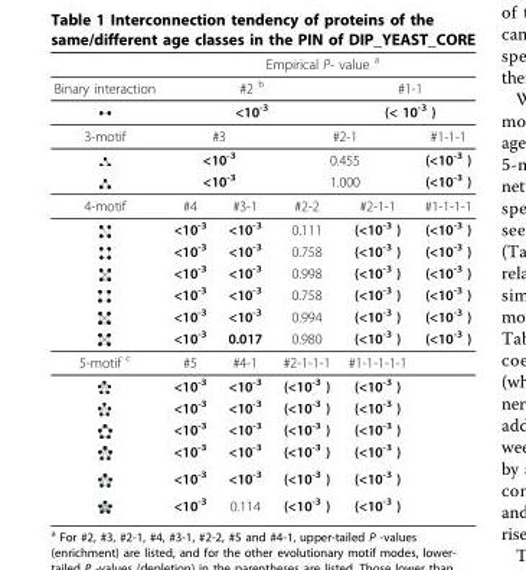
<table><thead><tr><td></td><td colspan="5">Empirical P- value <sup>a</sup></td></tr></thead><tbody><tr><td rowspan="2">Binary interaction</td><td colspan="3">#2 <sup>b</sup></td><td colspan="2">#1-1</td></tr><tr><td colspan="3">&lt;10<sup>-3</sup></td><td colspan="2">(&lt; 10<sup>-3</sup> )</td></tr><tr><td rowspan="3">3-motif</td><td colspan="2">#3</td><td colspan="2">#2-1</td><td>#1-1-1</td></tr><tr><td colspan="2">&lt;10<sup>-3</sup></td><td colspan="2">0.455</td><td>(&lt;10<sup>-3</sup> )</td></tr><tr><td colspan="2">&lt;10<sup>-3</sup></td><td colspan="2">1.000</td><td>(&lt;10<sup>-3</sup> )</td></tr><tr><td rowspan="7">4-motif</td><td>#4</td><td>#3-1</td><td>#2-2</td><td>#2-1-1</td><td>#1-1-1-1</td></tr><tr><td>&lt;10<sup>-3</sup></td><td>&lt;10<sup>-3</sup></td><td>0.111</td><td>(&lt;10<sup>-3</sup> )</td><td>(&lt;10<sup>-3</sup> )</td></tr><tr><td>&lt;10<sup>-3</sup></td><td>&lt;10<sup>-3</sup></td><td>0.758</td><td>(&lt;10<sup>-3</sup> )</td><td>(&lt;10<sup>-3</sup> )</td></tr><tr><td>&lt;10<sup>-3</sup></td><td>&lt;10<sup>-3</sup></td><td>0.998</td><td>(&lt;10<sup>-3</sup> )</td><td>(&lt;10<sup>-3</sup> )</td></tr><tr><td>&lt;10<sup>-3</sup></td><td>&lt;10<sup>-3</sup></td><td>0.758</td><td>(&lt;10<sup>-3</sup> )</td><td>(&lt;10<sup>-3</sup> )</td></tr><tr><td>&lt;10<sup>-3</sup></td><td>&lt;10<sup>-3</sup></td><td>0.994</td><td>(&lt;10<sup>-3</sup> )</td><td>(&lt;10<sup>-3</sup> )</td></tr><tr><td>&lt;10<sup>-3</sup></td><td>0.017</td><td>0.980</td><td>(&lt;10<sup>-3</sup> )</td><td>(&lt;10<sup>-3</sup> )</td></tr><tr><td rowspan="7">5-motif <sup>c</sup></td><td>#5</td><td>#4-1</td><td>#2-1-1-1</td><td>#1-1-1-1-1</td><td></td></tr><tr><td>&lt;10<sup>-3</sup></td><td>&lt;10<sup>-3</sup></td><td>(&lt;10<sup>-3</sup> )</td><td>(&lt;10<sup>-3</sup> )</td><td></td></tr><tr><td>&lt;10<sup>-3</sup></td><td>&lt;10<sup>-3</sup></td><td>(&lt;10<sup>-3</sup> )</td><td>(&lt;10<sup>-3</sup> )</td><td></td></tr><tr><td>&lt;10<sup>-3</sup></td><td>&lt;10<sup>-3</sup></td><td>(&lt;10<sup>-3</sup> )</td><td>(&lt;10<sup>-3</sup> )</td><td></td></tr><tr><td>&lt;10<sup>-3</sup></td><td>&lt;10<sup>-3</sup></td><td>(&lt;10<sup>-3</sup> )</td><td>(&lt;10<sup>-3</sup> )</td><td></td></tr><tr><td>&lt;10<sup>-3</sup></td><td>&lt;10<sup>-3</sup></td><td>(&lt;10<sup>-3</sup> )</td><td>(&lt;10<sup>-3</sup> )</td><td></td></tr><tr><td>&lt;10<sup>-3</sup></td><td>0.114</td><td>(&lt;10<sup>-3</sup> )</td><td>(&lt;10<sup>-3</sup> )</td><td></td></tr></tbody></table>